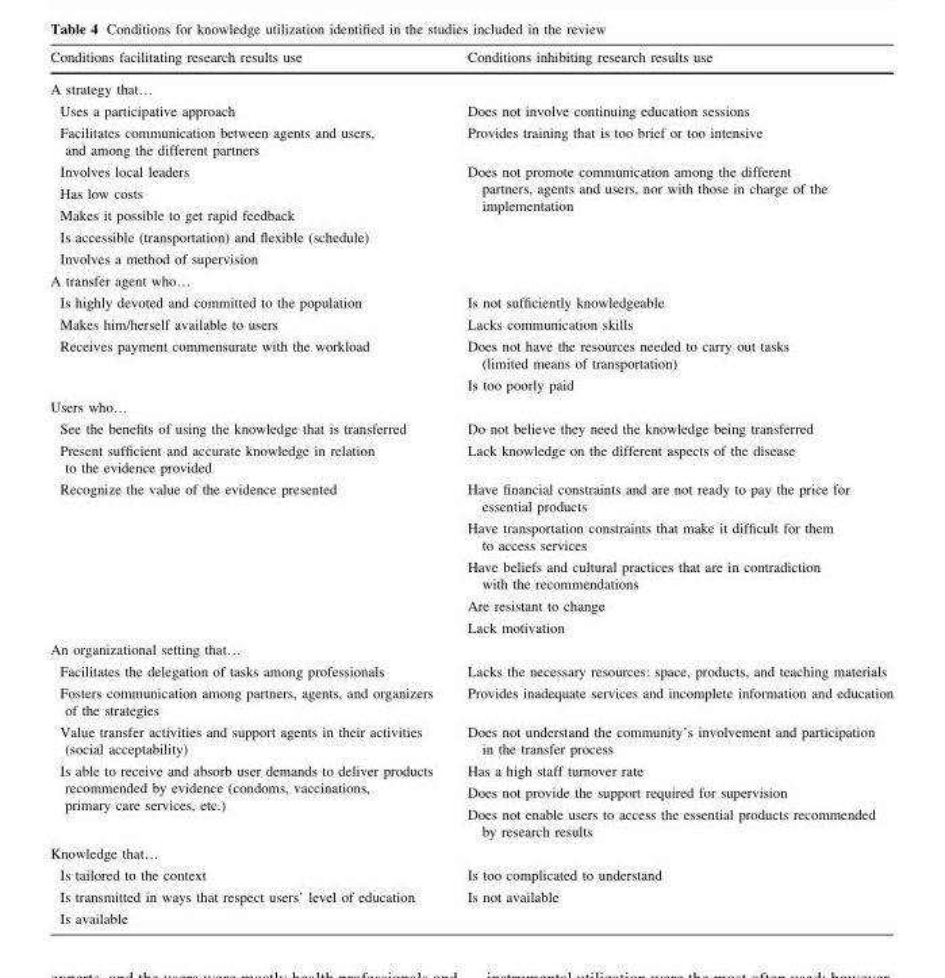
<table><thead><tr><td>Conditions facilitating research results use</td><td>Conditions inhibiting research results use</td></tr></thead><tbody><tr><td colspan="2">A strategy that…</td></tr><tr><td>Uses a participative approach</td><td>Does not involve continuing education sessions</td></tr><tr><td>Facilitates communication between agents and users, and among the different partners</td><td>Provides training that is too brief or too intensive</td></tr><tr><td>Involves local leaders</td><td rowspan="5">Does not promote communication among the different partners, agents and users, nor with those in charge of the implementation</td></tr><tr><td>Has low costs</td></tr><tr><td>Makes it possible to get rapid feedback</td></tr><tr><td>Is accessible (transportation) and flexible (schedule)</td></tr><tr><td>Involves a method of supervision</td></tr><tr><td colspan="2">A transfer agent who…</td></tr><tr><td>Is highly devoted and committed to the population</td><td>Is not sufficiently knowledgeable</td></tr><tr><td>Makes him/herself available to users</td><td>Lacks communication skills</td></tr><tr><td rowspan="2">Receives payment commensurate with the workload</td><td>Does not have the resources needed to carry out tasks (limited means of transportation)</td></tr><tr><td>Is too poorly paid</td></tr><tr><td colspan="2">Users who…</td></tr><tr><td>See the benefits of using the knowledge that is transferred</td><td>Do not believe they need the knowledge being transferred</td></tr><tr><td>Present sufficient and accurate knowledge in relation to the evidence provided</td><td>Lack knowledge on the different aspects of the disease</td></tr><tr><td rowspan="5">Recognize the value of the evidence presented</td><td>Have financial constraints and are not ready to pay the price for essential products</td></tr><tr><td>Have transportation constraints that make it difficult for them to access services</td></tr><tr><td>Have beliefs and cultural practices that are in contradiction with the recommendations</td></tr><tr><td>Are resistant to change</td></tr><tr><td>Lack motivation</td></tr><tr><td colspan="2">An organizational setting that…</td></tr><tr><td>Facilitates the delegation of tasks among professionals</td><td>Lacks the necessary resources: space, products, and teaching materials</td></tr><tr><td>Fosters communication among partners, agents, and organizers of the strategies</td><td>Provides inadequate services and incomplete information and education</td></tr><tr><td>Value transfer activities and support agents in their activities (social acceptability)</td><td>Does not understand the community’s involvement and participation in the transfer process</td></tr><tr><td rowspan="3">Is able to receive and absorb user demands to deliver products recommended by evidence (condoms, vaccinations, primary care services, etc.)</td><td>Has a high staff turnover rate</td></tr><tr><td>Does not provide the support required for supervision</td></tr><tr><td>Does not enable users to access the essential products recommended by research results</td></tr><tr><td colspan="2">Knowledge that…</td></tr><tr><td>Is tailored to the context</td><td>Is too complicated to understand</td></tr><tr><td>Is transmitted in ways that respect users’ level of education</td><td rowspan="2">Is not available</td></tr><tr><td>Is available</td></tr></tbody></table>